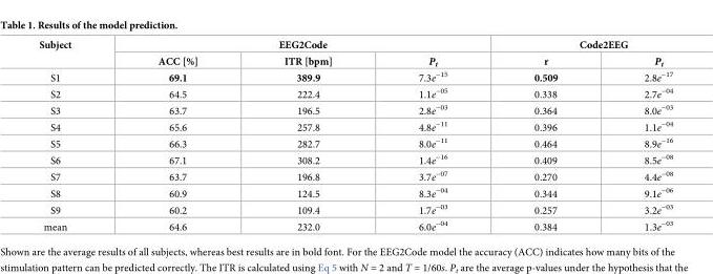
<table><thead><tr><td rowspan="2">Subject</td><td colspan="3">EEG2Code</td><td colspan="2">Code2EEG</td></tr><tr><td>ACC [%]</td><td>ITR [bpm]</td><td>P<sub>t</sub></td><td>r</td><td>P<sub>t</sub></td></tr></thead><tbody><tr><td>S1</td><td>69.1</td><td>389.9</td><td>7.3e<sup>−15</sup></td><td>0.509</td><td>2.8e<sup>−17</sup></td></tr><tr><td>S2</td><td>64.5</td><td>222.4</td><td>1.1e<sup>−05</sup></td><td>0.338</td><td>2.7e<sup>−04</sup></td></tr><tr><td>S3</td><td>63.7</td><td>196.5</td><td>2.8e<sup>−03</sup></td><td>0.364</td><td>8.0e<sup>−03</sup></td></tr><tr><td>S4</td><td>65.6</td><td>257.8</td><td>4.8e<sup>−11</sup></td><td>0.396</td><td>1.1e<sup>−04</sup></td></tr><tr><td>S5</td><td>66.3</td><td>282.7</td><td>8.0e<sup>−11</sup></td><td>0.464</td><td>8.9e<sup>−16</sup></td></tr><tr><td>S6</td><td>67.1</td><td>308.2</td><td>1.4e<sup>−16</sup></td><td>0.409</td><td>8.5e<sup>−08</sup></td></tr><tr><td>S7</td><td>63.7</td><td>196.8</td><td>3.7e<sup>−07</sup></td><td>0.270</td><td>4.4e<sup>−08</sup></td></tr><tr><td>S8</td><td>60.9</td><td>124.5</td><td>8.3e<sup>−04</sup></td><td>0.344</td><td>9.1e<sup>−06</sup></td></tr><tr><td>S9</td><td>60.2</td><td>109.4</td><td>1.7e<sup>−03</sup></td><td>0.257</td><td>3.2e<sup>−03</sup></td></tr><tr><td>mean</td><td>64.6</td><td>232.0</td><td>6.0e<sup>−04</sup></td><td>0.384</td><td>1.3e<sup>−03</sup></td></tr></tbody></table>